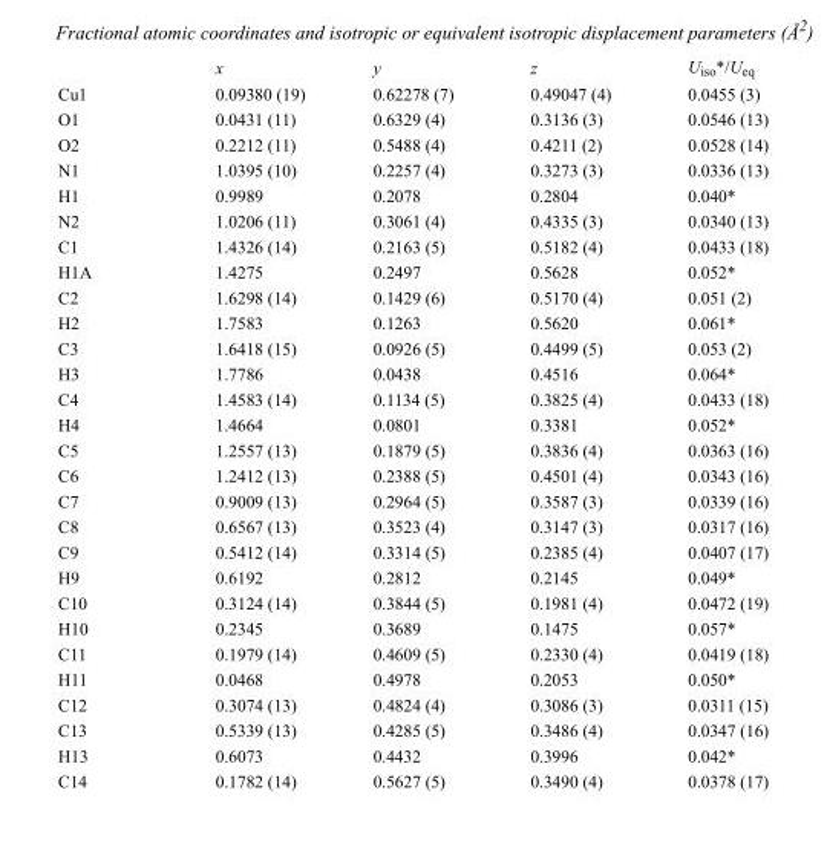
<table><thead><tr><td></td><td>x</td><td>y</td><td>z</td><td>U<sub>iso</sub>*/U<sub>eq</sub></td></tr></thead><tbody><tr><td>Cu1</td><td>0.09380 (19)</td><td>0.62278 (7)</td><td>0.49047 (4)</td><td>0.0455 (3)</td></tr><tr><td>O1</td><td>0.0431 (11)</td><td>0.6329 (4)</td><td>0.3136 (3)</td><td>0.0546 (13)</td></tr><tr><td>O2</td><td>0.2212 (11)</td><td>0.5488 (4)</td><td>0.4211 (2)</td><td>0.0528 (14)</td></tr><tr><td>N1</td><td>1.0395 (10)</td><td>0.2257 (4)</td><td>0.3273 (3)</td><td>0.0336 (13)</td></tr><tr><td>H1</td><td>0.9989</td><td>0.2078</td><td>0.2804</td><td>0.040*</td></tr><tr><td>N2</td><td>1.0206 (11)</td><td>0.3061 (4)</td><td>0.4335 (3)</td><td>0.0340 (13)</td></tr><tr><td>C1</td><td>1.4326 (14)</td><td>0.2163 (5)</td><td>0.5182 (4)</td><td>0.0433 (18)</td></tr><tr><td>H1A</td><td>1.4275</td><td>0.2497</td><td>0.5628</td><td>0.052*</td></tr><tr><td>C2</td><td>1.6298 (14)</td><td>0.1429 (6)</td><td>0.5170 (4)</td><td>0.051 (2)</td></tr><tr><td>H2</td><td>1.7583</td><td>0.1263</td><td>0.5620</td><td>0.061*</td></tr><tr><td>C3</td><td>1.6418 (15)</td><td>0.0926 (5)</td><td>0.4499 (5)</td><td>0.053 (2)</td></tr><tr><td>H3</td><td>1.7786</td><td>0.0438</td><td>0.4516</td><td>0.064*</td></tr><tr><td>C4</td><td>1.4583 (14)</td><td>0.1134 (5)</td><td>0.3825 (4)</td><td>0.0433 (18)</td></tr><tr><td>H4</td><td>1.4664</td><td>0.0801</td><td>0.3381</td><td>0.052*</td></tr><tr><td>C5</td><td>1.2557 (13)</td><td>0.1879 (5)</td><td>0.3836 (4)</td><td>0.0363 (16)</td></tr><tr><td>C6</td><td>1.2412 (13)</td><td>0.2388 (5)</td><td>0.4501 (4)</td><td>0.0343 (16)</td></tr><tr><td>C7</td><td>0.9009 (13)</td><td>0.2964 (5)</td><td>0.3587 (3)</td><td>0.0339 (16)</td></tr><tr><td>C8</td><td>0.6567 (13)</td><td>0.3523 (4)</td><td>0.3147 (3)</td><td>0.0317 (16)</td></tr><tr><td>C9</td><td>0.5412 (14)</td><td>0.3314 (5)</td><td>0.2385 (4)</td><td>0.0407 (17)</td></tr><tr><td>H9</td><td>0.6192</td><td>0.2812</td><td>0.2145</td><td>0.049*</td></tr><tr><td>C10</td><td>0.3124 (14)</td><td>0.3844 (5)</td><td>0.1981 (4)</td><td>0.0472 (19)</td></tr><tr><td>H10</td><td>0.2345</td><td>0.3689</td><td>0.1475</td><td>0.057*</td></tr><tr><td>C11</td><td>0.1979 (14)</td><td>0.4609 (5)</td><td>0.2330 (4)</td><td>0.0419 (18)</td></tr><tr><td>H11</td><td>0.0468</td><td>0.4978</td><td>0.2053</td><td>0.050*</td></tr><tr><td>C12</td><td>0.3074 (13)</td><td>0.4824 (4)</td><td>0.3086 (3)</td><td>0.0311 (15)</td></tr><tr><td>C13</td><td>0.5339 (13)</td><td>0.4285 (5)</td><td>0.3486 (4)</td><td>0.0347 (16)</td></tr><tr><td>H13</td><td>0.6073</td><td>0.4432</td><td>0.3996</td><td>0.042*</td></tr><tr><td>C14</td><td>0.1782 (14)</td><td>0.5627 (5)</td><td>0.3490 (4)</td><td>0.0378 (17)</td></tr></tbody></table>